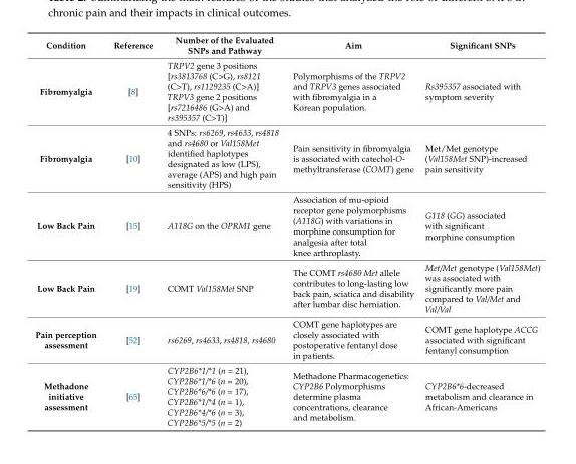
<table><thead><tr><td>Condition</td><td>Reference</td><td>Number of the Evaluated SNPs and Pathway</td><td>Aim</td><td>Significant SNPs</td></tr></thead><tbody><tr><td>Fibromyalgia</td><td>[8]</td><td>TRPV2 gene 3 positions [rs3813768 (C&gt;G), rs8121 (C&gt;T), rs1129235 (C&gt;A)] TRPV3 gene 2 positions [rs7216486 (G&gt;A) and rs395357 (C&gt;T)]</td><td>Polymorphisms of the TRPV2 and TRPV3 genes associated with fibromyalgia in a Korean population.</td><td>Rs395357 associated with symptom severity</td></tr><tr><td>Fibromyalgia</td><td>[10]</td><td>4 SNPs: rs6269, rs4633, rs4818 and rs4680 or Val158Met identified haplotypes designated as low (LPS), average (APS) and high pain sensitivity (HPS)</td><td>Pain sensitivity in fibromyalgia is associated with catechol-O- methyltransferase (COMT) gene</td><td>Met/Met genotype (Val158Met SNP)-increased pain sensitivity</td></tr><tr><td>Low Back Pain</td><td>[15]</td><td>A118G on the OPRM1 gene</td><td>Association of mu-opioid receptor gene polymorphisms (A118G) with variations in morphine consumption for analgesia after total knee arthroplasty.</td><td>G118 (GG) associated with significant morphine consumption</td></tr><tr><td>Low Back Pain</td><td>[19]</td><td>COMT Val158Met SNP</td><td>The COMT rs4680 Met allele contributes to long-lasting low back pain, sciatica and disability after lumbar disc herniation.</td><td>Met/Met genotype (Val158Met) was associated with significantly more pain compared to Val/Met and Val/Val</td></tr><tr><td>Pain perception assessment</td><td>[52]</td><td>rs6269, rs4633, rs4818, rs4680</td><td>COMT gene haplotypes are closely associated with postoperative fentanyl dose in patients.</td><td>COMT gene haplotype ACCG associated with significant fentanyl consumption</td></tr><tr><td>Methadone initiative assessment</td><td>[65]</td><td>CYP2B6*1/*1 (n = 21), CYP2B6*1/*6 (n = 20), CYP2B6*6/*6 (n = 17), CYP2B6*1/*4 (n = 1), CYP2B6*4/*6 (n = 3), CYP2B6*5/*5 (n = 2)</td><td>Methadone Pharmacogenetics: CYP2B6 Polymorphisms determine plasma concentrations, clearance and metabolism.</td><td>CYP2B6*6-decreased metabolism and clearance in African-Americans</td></tr></tbody></table>